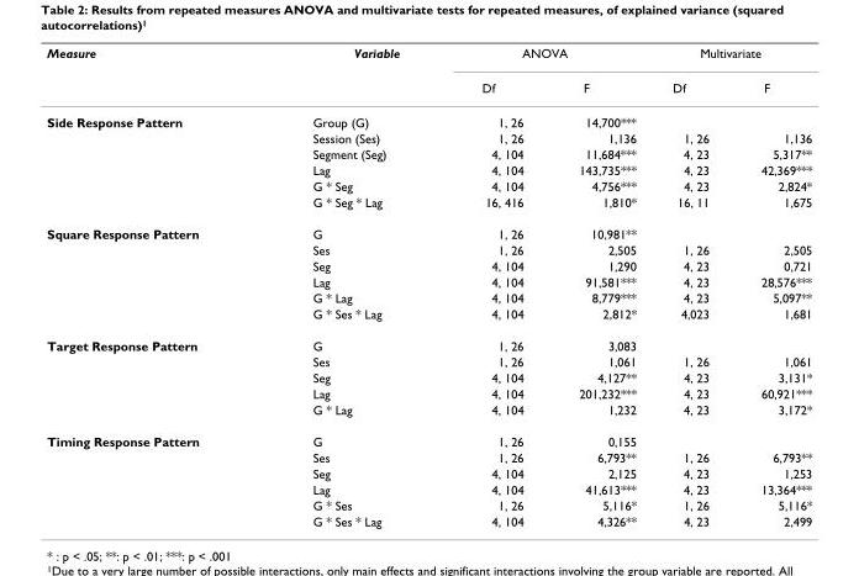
<table><thead><tr><td rowspan="2">Measure</td><td rowspan="2">Variable</td><td colspan="2">ANOVA</td><td colspan="2">Multivariate</td></tr><tr><td>Df</td><td>F</td><td>Df</td><td>F</td></tr></thead><tbody><tr><td rowspan="6">Side Response Pattern</td><td>Group (G)</td><td>1, 26</td><td>14,700***</td><td></td><td></td></tr><tr><td>Session (Ses)</td><td>1, 26</td><td>1,136</td><td>1, 26</td><td>1,136</td></tr><tr><td>Segment (Seg)</td><td>4, 104</td><td>11,684***</td><td>4, 23</td><td>5,317**</td></tr><tr><td>Lag</td><td>4, 104</td><td>143,735***</td><td>4, 23</td><td>42,369***</td></tr><tr><td>G * Seg</td><td>4, 104</td><td>4,756***</td><td>4, 23</td><td>2,824*</td></tr><tr><td>G * Seg * Lag</td><td>16, 416</td><td>1,810*</td><td>16, 11</td><td>1,675</td></tr><tr><td rowspan="6">Square Response Pattern</td><td>G</td><td>1, 26</td><td>10,981**</td><td></td><td></td></tr><tr><td>Ses</td><td>1, 26</td><td>2,505</td><td>1, 26</td><td>2,505</td></tr><tr><td>Seg</td><td>4, 104</td><td>1,290</td><td>4, 23</td><td>0,721</td></tr><tr><td>Lag</td><td>4, 104</td><td>91,581***</td><td>4, 23</td><td>28,576***</td></tr><tr><td>G * Lag</td><td>4, 104</td><td>8,779***</td><td>4, 23</td><td>5,097**</td></tr><tr><td>G * Ses * Lag</td><td>4, 104</td><td>2,812*</td><td>4,023</td><td>1,681</td></tr><tr><td rowspan="5">Target Response Pattern</td><td>G</td><td>1, 26</td><td>3,083</td><td></td><td></td></tr><tr><td>Ses</td><td>1, 26</td><td>1,061</td><td>1, 26</td><td>1,061</td></tr><tr><td>Seg</td><td>4, 104</td><td>4,127**</td><td>4, 23</td><td>3,131*</td></tr><tr><td>Lag</td><td>4, 104</td><td>201,232***</td><td>4, 23</td><td>60,921***</td></tr><tr><td>G * Lag</td><td>4, 104</td><td>1,232</td><td>4, 23</td><td>3,172*</td></tr><tr><td rowspan="6">Timing Response Pattern</td><td>G</td><td>1, 26</td><td>0,155</td><td></td><td></td></tr><tr><td>Ses</td><td>1, 26</td><td>6,793**</td><td>1, 26</td><td>6,793**</td></tr><tr><td>Seg</td><td>4, 104</td><td>2,125</td><td>4, 23</td><td>1,253</td></tr><tr><td>Lag</td><td>4, 104</td><td>41,613***</td><td>4, 23</td><td>13,364***</td></tr><tr><td>G * Ses</td><td>1, 26</td><td>5,116*</td><td>1, 26</td><td>5,116*</td></tr><tr><td>G * Ses * Lag</td><td>4, 104</td><td>4,326**</td><td>4, 23</td><td>2,499</td></tr></tbody></table>